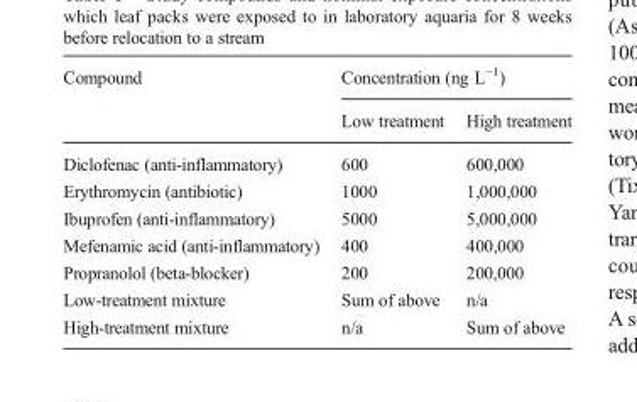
<table><thead><tr><td rowspan="2">Compound</td><td colspan="2">Concentration (ng L<sup>−1</sup>)</td></tr><tr><td>Low treatment</td><td>High treatment</td></tr></thead><tbody><tr><td>Diclofenac (anti-inflammatory)</td><td>600</td><td>600,000</td></tr><tr><td>Erythromycin (antibiotic)</td><td>1000</td><td>1,000,000</td></tr><tr><td>Ibuprofen (anti-inflammatory)</td><td>5000</td><td>5,000,000</td></tr><tr><td>Mefenamic acid (anti-inflammatory)</td><td>400</td><td>400,000</td></tr><tr><td>Propranolol (beta-blocker)</td><td>200</td><td>200,000</td></tr><tr><td>Low-treatment mixture</td><td>Sum of above</td><td>n/a</td></tr><tr><td>High-treatment mixture</td><td>n/a</td><td>Sum of above</td></tr></tbody></table>